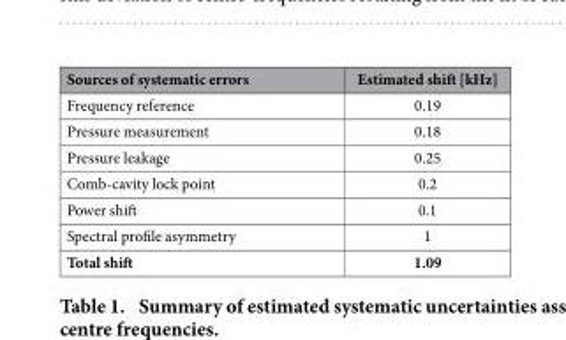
<table><thead><tr><td>Sources of systematic errors</td><td>Estimated shift [kHz]</td></tr></thead><tbody><tr><td>Frequency reference</td><td>0.19</td></tr><tr><td>Pressure measurement</td><td>0.18</td></tr><tr><td>Pressure leakage</td><td>0.25</td></tr><tr><td>Comb-cavity lock point</td><td>0.2</td></tr><tr><td>Power shift</td><td>0.1</td></tr><tr><td>Spectral profile asymmetry</td><td>1</td></tr><tr><td>Total shift</td><td>1.09</td></tr></tbody></table>